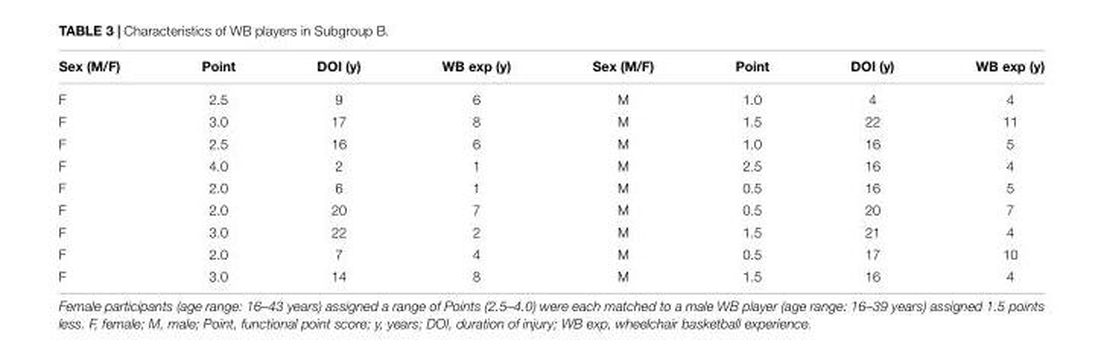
<table><thead><tr><td>Sex (M/F)</td><td>Point</td><td>DOI (y)</td><td>WB exp (y)</td><td>Sex (M/F)</td><td>Point</td><td>DOI (y)</td><td>WB exp (y)</td></tr></thead><tbody><tr><td>F</td><td>2.5</td><td>9</td><td>6</td><td>M</td><td>1.0</td><td>4</td><td>4</td></tr><tr><td>F</td><td>3.0</td><td>17</td><td>8</td><td>M</td><td>1.5</td><td>22</td><td>11</td></tr><tr><td>F</td><td>2.5</td><td>16</td><td>6</td><td>M</td><td>1.0</td><td>16</td><td>5</td></tr><tr><td>F</td><td>4.0</td><td>2</td><td>1</td><td>M</td><td>2.5</td><td>16</td><td>4</td></tr><tr><td>F</td><td>2.0</td><td>6</td><td>1</td><td>M</td><td>0.5</td><td>16</td><td>5</td></tr><tr><td>F</td><td>2.0</td><td>20</td><td>7</td><td>M</td><td>0.5</td><td>20</td><td>7</td></tr><tr><td>F</td><td>3.0</td><td>22</td><td>2</td><td>M</td><td>1.5</td><td>21</td><td>4</td></tr><tr><td>F</td><td>2.0</td><td>7</td><td>4</td><td>M</td><td>0.5</td><td>17</td><td>10</td></tr><tr><td>F</td><td>3.0</td><td>14</td><td>8</td><td>M</td><td>1.5</td><td>16</td><td>4</td></tr></tbody></table>